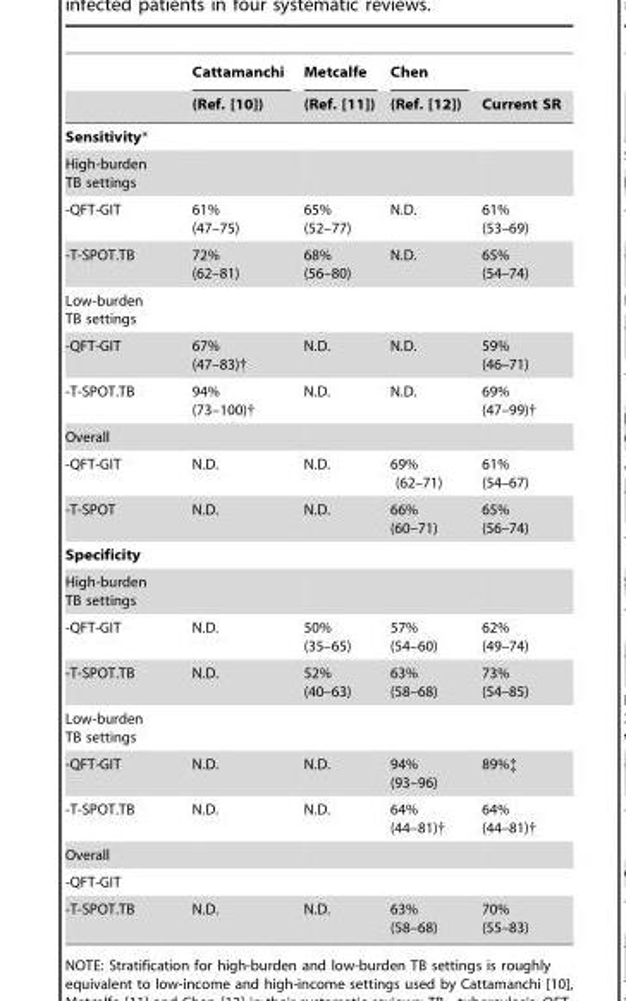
<table><thead><tr><td rowspan="2"></td><td rowspan="2">Cattamanchi (Ref. [10])</td><td rowspan="2">Metcalfe (Ref. [11])</td><td rowspan="2">Chen (Ref. [12])</td><td rowspan="2">Current SR</td></tr><tr></tr></thead><tbody><tr><td colspan="5">Sensitivity*</td></tr><tr><td colspan="5">High-burden TB settings</td></tr><tr><td>-QFT-GIT</td><td>61% (47–75)</td><td>65% (52–77)</td><td>N.D.</td><td>61% (53–69)</td></tr><tr><td>-T-SPOT.TB</td><td>72% (62–81)</td><td>68% (56–80)</td><td>N.D.</td><td>65% (54–74)</td></tr><tr><td colspan="5">Low-burden TB settings</td></tr><tr><td>-QFT-GIT</td><td>67% (47–83)†</td><td>N.D.</td><td>N.D.</td><td>59% (46–71)</td></tr><tr><td>-T-SPOT.TB</td><td>94% (73–100)†</td><td>N.D.</td><td>N.D.</td><td>69% (47–99)†</td></tr><tr><td colspan="5">Overall</td></tr><tr><td>-QFT-GIT</td><td>N.D.</td><td>N.D.</td><td>69% (62–71)</td><td>61% (54–67)</td></tr><tr><td>-T-SPOT</td><td>N.D.</td><td>N.D.</td><td>66% (60–71)</td><td>65% (56–74)</td></tr><tr><td colspan="5">Specificity</td></tr><tr><td colspan="5">High-burden TB settings</td></tr><tr><td>-QFT-GIT</td><td>N.D.</td><td>50% (35–65)</td><td>57% (54–60)</td><td>62% (49–74)</td></tr><tr><td>-T-SPOT.TB</td><td>N.D.</td><td>52% (40–63)</td><td>63% (58–68)</td><td>73% (54–85)</td></tr><tr><td colspan="5">Low-burden TB settings</td></tr><tr><td>-QFT-GIT</td><td>N.D.</td><td>N.D.</td><td>94% (93–96)</td><td>89%‡</td></tr><tr><td>-T-SPOT.TB</td><td>N.D.</td><td>N.D.</td><td>64% (44–81)†</td><td>64% (44–81)†</td></tr><tr><td colspan="5">Overall</td></tr><tr><td colspan="5">-QFT-GIT</td></tr><tr><td>-T-SPOT.TB</td><td>N.D.</td><td>N.D.</td><td>63% (58–68)</td><td>70% (55–83)</td></tr></tbody></table>